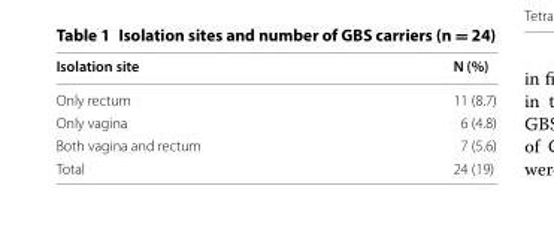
<table><thead><tr><td>Isolation site</td><td>N (%)</td></tr></thead><tbody><tr><td>Only rectum</td><td>11 (8.7)</td></tr><tr><td>Only vagina</td><td>6 (4.8)</td></tr><tr><td>Both vagina and rectum</td><td>7 (5.6)</td></tr><tr><td>Total</td><td>24 (19)</td></tr></tbody></table>